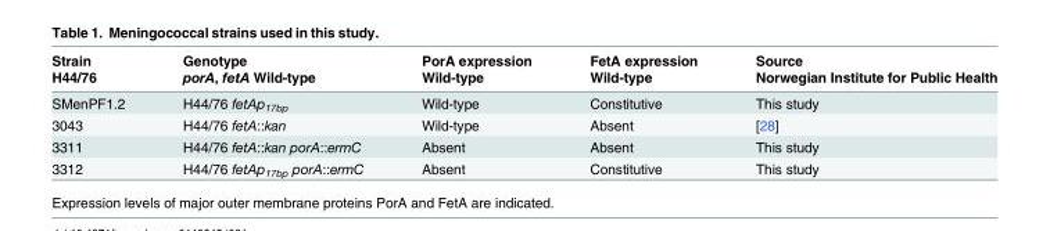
<table><thead><tr><td rowspan="2">Strain H44/76</td><td rowspan="2">Genotype porA, fetA Wild-type</td><td rowspan="2">PorA expression Wild-type</td><td rowspan="2">FetA expression Wild-type</td><td rowspan="2">Source Norwegian Institute for Public Health</td></tr><tr></tr></thead><tbody><tr><td>SMenPF1.2</td><td>H44/76 fetAp<sub>17bp</sub></td><td>Wild-type</td><td>Constitutive</td><td>This study</td></tr><tr><td>3043</td><td>H44/76 fetA::kan</td><td>Wild-type</td><td>Absent</td><td>[28]</td></tr><tr><td>3311</td><td>H44/76 fetA::kan porA::ermC</td><td>Absent</td><td>Absent</td><td>This study</td></tr><tr><td>3312</td><td>H44/76 fetAp<sub>17bp</sub> porA::ermC</td><td>Absent</td><td>Constitutive</td><td>This study</td></tr></tbody></table>